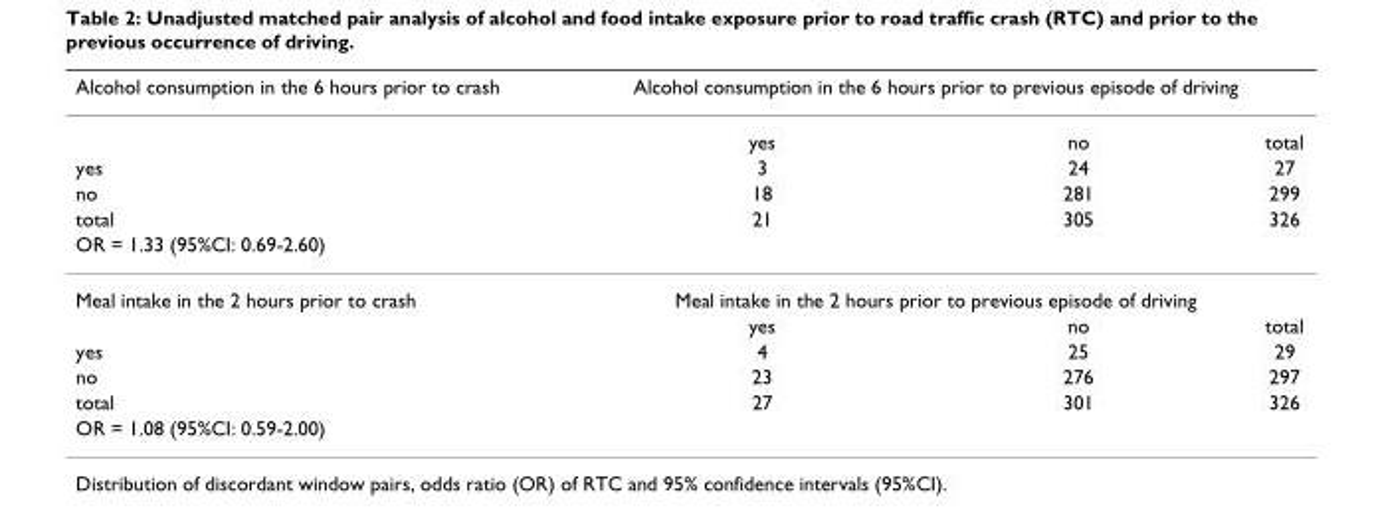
<table><thead><tr><td rowspan="2">Alcohol consumption in the 6 hours prior to crash</td><td colspan="2">Alcohol consumption in the 6 hours prior to previous episode of driving</td><td rowspan="2">total</td></tr><tr><td>yes</td><td>no</td></tr></thead><tbody><tr><td>yes</td><td>3</td><td>24</td><td>27</td></tr><tr><td>no</td><td>18</td><td>281</td><td>299</td></tr><tr><td>total</td><td>21</td><td>305</td><td>326</td></tr><tr><td colspan="4">OR = 1.33 (95%CI: 0.69-2.60)</td></tr><tr><td rowspan="2">Meal intake in the 2 hours prior to crash</td><td colspan="2">Meal intake in the 2 hours prior to previous episode of driving</td><td></td></tr><tr><td>yes</td><td>no</td><td>total</td></tr><tr><td>yes</td><td>4</td><td>25</td><td>29</td></tr><tr><td>no</td><td>23</td><td>276</td><td>297</td></tr><tr><td>total</td><td>27</td><td>301</td><td>326</td></tr><tr><td colspan="2">OR = 1.08 (95%CI: 0.59-2.00)</td><td></td><td></td></tr></tbody></table>